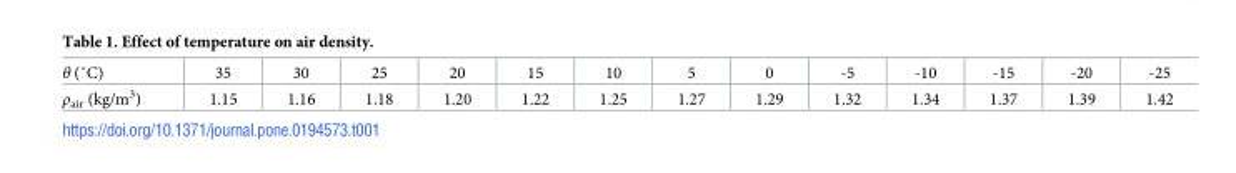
<table><tbody><tr><td>θ (˚C)</td><td>35</td><td>30</td><td>25</td><td>20</td><td>15</td><td>10</td><td>5</td><td>0</td><td>-5</td><td>-10</td><td>-15</td><td>-20</td><td>-25</td></tr><tr><td>ρ<sub>air</sub> (kg/m<sup>3</sup>)</td><td>1.15</td><td>1.16</td><td>1.18</td><td>1.20</td><td>1.22</td><td>1.25</td><td>1.27</td><td>1.29</td><td>1.32</td><td>1.34</td><td>1.37</td><td>1.39</td><td>1.42</td></tr></tbody></table>